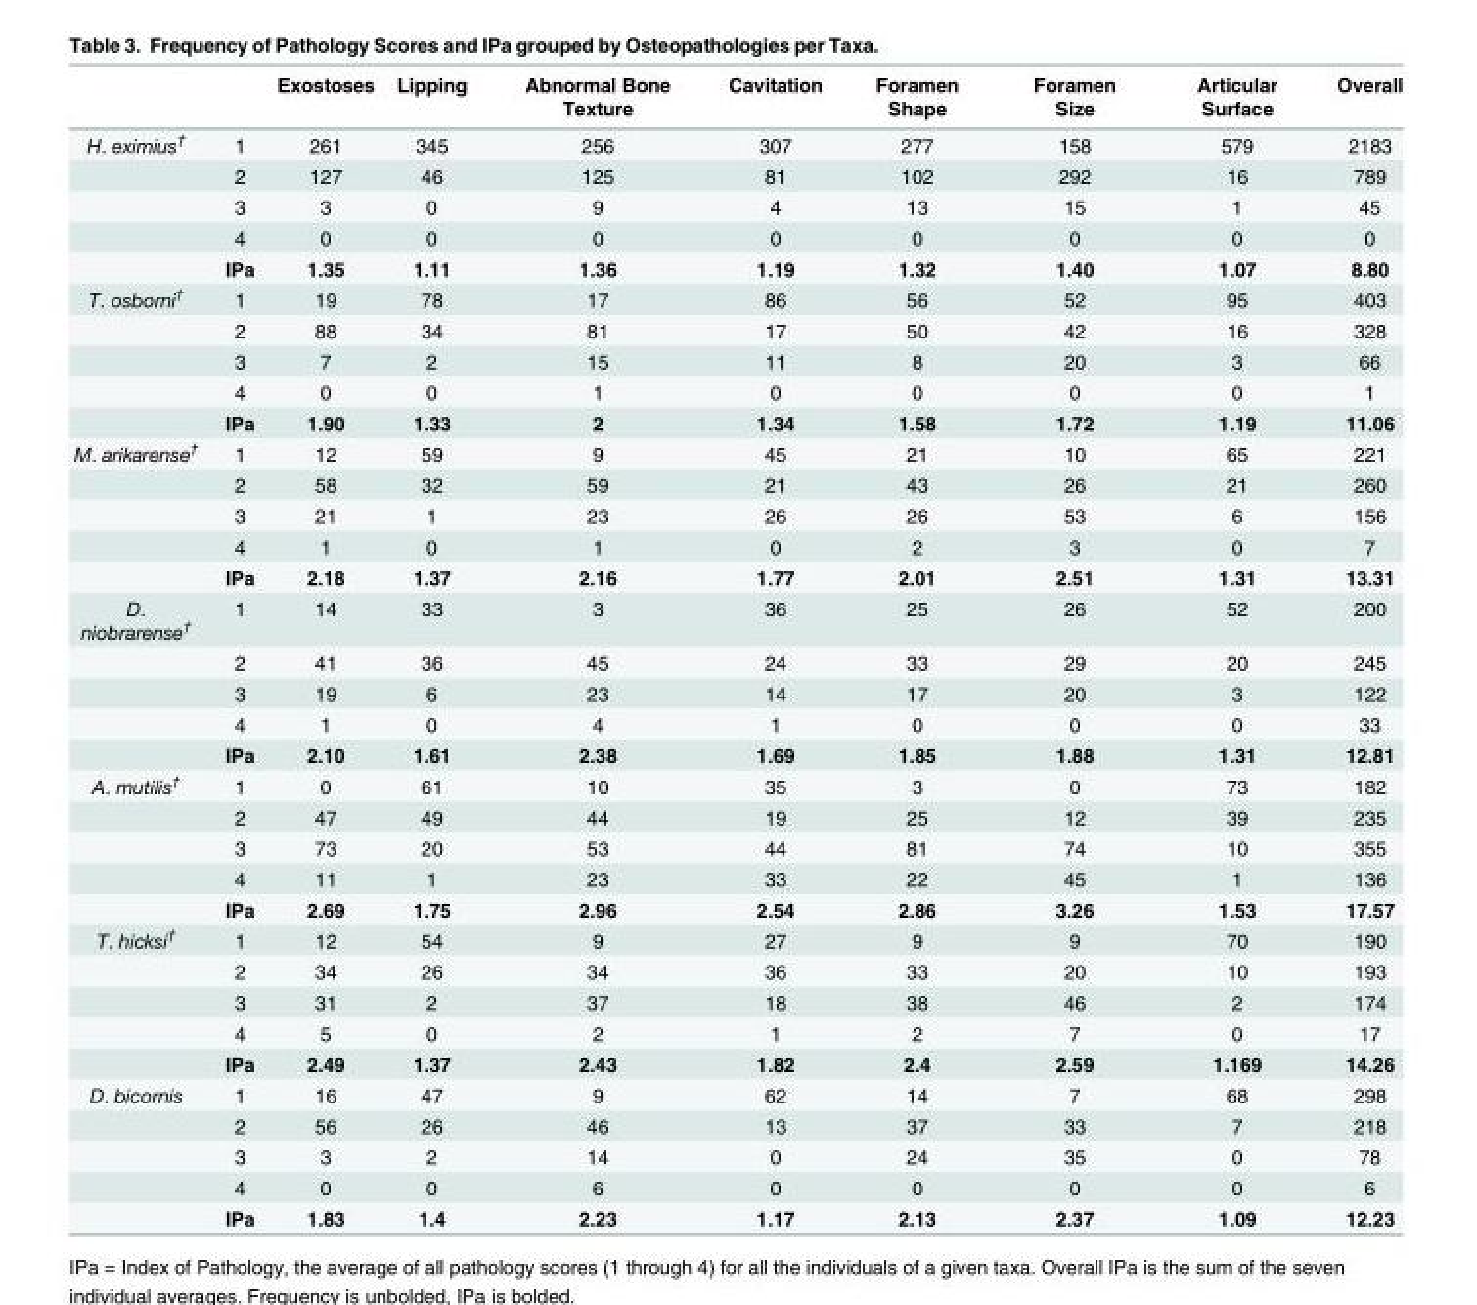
<table><thead><tr><td></td><td></td><td>Exostoses</td><td>Lipping</td><td>Abnormal Bone Texture</td><td>Cavitation</td><td>Foramen Shape</td><td>Foramen Size</td><td>Articular Surface</td><td>Overall</td></tr></thead><tbody><tr><td rowspan="5">H. eximius<sup>†</sup></td><td>1</td><td>261</td><td>345</td><td>256</td><td>307</td><td>277</td><td>158</td><td>579</td><td>2183</td></tr><tr><td>2</td><td>127</td><td>46</td><td>125</td><td>81</td><td>102</td><td>292</td><td>16</td><td>789</td></tr><tr><td>3</td><td>3</td><td>0</td><td>9</td><td>4</td><td>13</td><td>15</td><td>1</td><td>45</td></tr><tr><td>4</td><td>0</td><td>0</td><td>0</td><td>0</td><td>0</td><td>0</td><td>0</td><td>0</td></tr><tr><td>IPa</td><td>1.35</td><td>1.11</td><td>1.36</td><td>1.19</td><td>1.32</td><td>1.40</td><td>1.07</td><td>8.80</td></tr><tr><td rowspan="5">T. osborni<sup>†</sup></td><td>1</td><td>19</td><td>78</td><td>17</td><td>86</td><td>56</td><td>52</td><td>95</td><td>403</td></tr><tr><td>2</td><td>88</td><td>34</td><td>81</td><td>17</td><td>50</td><td>42</td><td>16</td><td>328</td></tr><tr><td>3</td><td>7</td><td>2</td><td>15</td><td>11</td><td>8</td><td>20</td><td>3</td><td>66</td></tr><tr><td>4</td><td>0</td><td>0</td><td>1</td><td>0</td><td>0</td><td>0</td><td>0</td><td>1</td></tr><tr><td>IPa</td><td>1.90</td><td>1.33</td><td>2</td><td>1.34</td><td>1.58</td><td>1.72</td><td>1.19</td><td>11.06</td></tr><tr><td rowspan="5">M. arikarense<sup>†</sup></td><td>1</td><td>12</td><td>59</td><td>9</td><td>45</td><td>21</td><td>10</td><td>65</td><td>221</td></tr><tr><td>2</td><td>58</td><td>32</td><td>59</td><td>21</td><td>43</td><td>26</td><td>21</td><td>260</td></tr><tr><td>3</td><td>21</td><td>1</td><td>23</td><td>26</td><td>26</td><td>53</td><td>6</td><td>156</td></tr><tr><td>4</td><td>1</td><td>0</td><td>1</td><td>0</td><td>2</td><td>3</td><td>0</td><td>7</td></tr><tr><td>IPa</td><td>2.18</td><td>1.37</td><td>2.16</td><td>1.77</td><td>2.01</td><td>2.51</td><td>1.31</td><td>13.31</td></tr><tr><td rowspan="5">D. niobrarense<sup>†</sup></td><td>1</td><td>14</td><td>33</td><td>3</td><td>36</td><td>25</td><td>26</td><td>52</td><td>200</td></tr><tr><td>2</td><td>41</td><td>36</td><td>45</td><td>24</td><td>33</td><td>29</td><td>20</td><td>245</td></tr><tr><td>3</td><td>19</td><td>6</td><td>23</td><td>14</td><td>17</td><td>20</td><td>3</td><td>122</td></tr><tr><td>4</td><td>1</td><td>0</td><td>4</td><td>1</td><td>0</td><td>0</td><td>0</td><td>33</td></tr><tr><td>IPa</td><td>2.10</td><td>1.61</td><td>2.38</td><td>1.69</td><td>1.85</td><td>1.88</td><td>1.31</td><td>12.81</td></tr><tr><td rowspan="5">A. mutilis<sup>†</sup></td><td>1</td><td>0</td><td>61</td><td>10</td><td>35</td><td>3</td><td>0</td><td>73</td><td>182</td></tr><tr><td>2</td><td>47</td><td>49</td><td>44</td><td>19</td><td>25</td><td>12</td><td>39</td><td>235</td></tr><tr><td>3</td><td>73</td><td>20</td><td>53</td><td>44</td><td>81</td><td>74</td><td>10</td><td>355</td></tr><tr><td>4</td><td>11</td><td>1</td><td>23</td><td>33</td><td>22</td><td>45</td><td>1</td><td>136</td></tr><tr><td>IPa</td><td>2.69</td><td>1.75</td><td>2.96</td><td>2.54</td><td>2.86</td><td>3.26</td><td>1.53</td><td>17.57</td></tr><tr><td rowspan="5">T. hicksi<sup>†</sup></td><td>1</td><td>12</td><td>54</td><td>9</td><td>27</td><td>9</td><td>9</td><td>70</td><td>190</td></tr><tr><td>2</td><td>34</td><td>26</td><td>34</td><td>36</td><td>33</td><td>20</td><td>10</td><td>193</td></tr><tr><td>3</td><td>31</td><td>2</td><td>37</td><td>18</td><td>38</td><td>46</td><td>2</td><td>174</td></tr><tr><td>4</td><td>5</td><td>0</td><td>2</td><td>1</td><td>2</td><td>7</td><td>0</td><td>17</td></tr><tr><td>IPa</td><td>2.49</td><td>1.37</td><td>2.43</td><td>1.82</td><td>2.4</td><td>2.59</td><td>1.169</td><td>14.26</td></tr><tr><td rowspan="5">D. bicornis</td><td>1</td><td>16</td><td>47</td><td>9</td><td>62</td><td>14</td><td>7</td><td>68</td><td>298</td></tr><tr><td>2</td><td>56</td><td>26</td><td>46</td><td>13</td><td>37</td><td>33</td><td>7</td><td>218</td></tr><tr><td>3</td><td>3</td><td>2</td><td>14</td><td>0</td><td>24</td><td>35</td><td>0</td><td>78</td></tr><tr><td>4</td><td>0</td><td>0</td><td>6</td><td>0</td><td>0</td><td>0</td><td>0</td><td>6</td></tr><tr><td>IPa</td><td>1.83</td><td>1.4</td><td>2.23</td><td>1.17</td><td>2.13</td><td>2.37</td><td>1.09</td><td>12.23</td></tr></tbody></table>